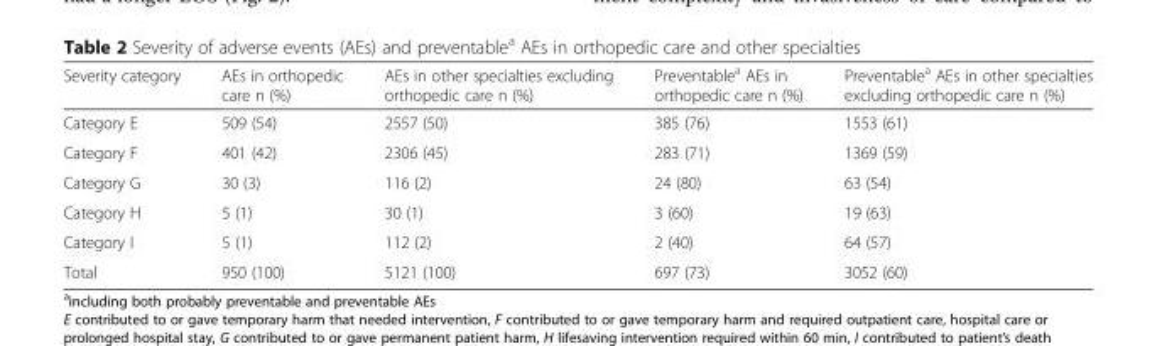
<table><thead><tr><td>Severity category</td><td>AEs in orthopedic care n (%)</td><td>AEs in other specialties excluding orthopedic care n (%)</td><td>Preventable<sup>a</sup> AEs in orthopedic care n (%)</td><td>Preventable<sup>a</sup> AEs in other specialties excluding orthopedic care n (%)</td></tr></thead><tbody><tr><td>Category E</td><td>509 (54)</td><td>2557 (50)</td><td>385 (76)</td><td>1553 (61)</td></tr><tr><td>Category F</td><td>401 (42)</td><td>2306 (45)</td><td>283 (71)</td><td>1369 (59)</td></tr><tr><td>Category G</td><td>30 (3)</td><td>116 (2)</td><td>24 (80)</td><td>63 (54)</td></tr><tr><td>Category H</td><td>5 (1)</td><td>30 (1)</td><td>3 (60)</td><td>19 (63)</td></tr><tr><td>Category I</td><td>5 (1)</td><td>112 (2)</td><td>2 (40)</td><td>64 (57)</td></tr><tr><td>Total</td><td>950 (100)</td><td>5121 (100)</td><td>697 (73)</td><td>3052 (60)</td></tr></tbody></table>